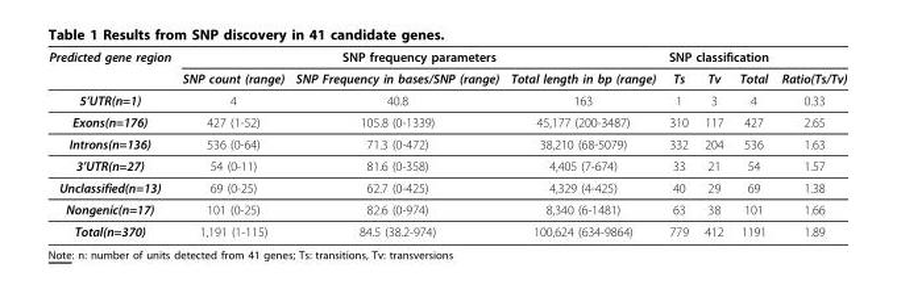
<table><thead><tr><td rowspan="2">Predicted gene region</td><td colspan="3">SNP frequency parameters</td><td colspan="3">SNP classification</td><td rowspan="2">Ratio(Ts/Tv)</td></tr><tr><td>SNP count (range)</td><td>SNP Frequency in bases/SNP (range)</td><td>Total length in bp (range)</td><td>Ts</td><td>Tv</td><td>Total</td></tr></thead><tbody><tr><td>5’UTR(n=1)</td><td>4</td><td>40.8</td><td>163</td><td>1</td><td>3</td><td>4</td><td>0.33</td></tr><tr><td>Exons(n=176)</td><td>427 (1-52)</td><td>105.8 (0-1339)</td><td>45,177 (200-3487)</td><td>310</td><td>117</td><td>427</td><td>2.65</td></tr><tr><td>Introns(n=136)</td><td>536 (0-64)</td><td>71.3 (0-472)</td><td>38,210 (68-5079)</td><td>332</td><td>204</td><td>536</td><td>1.63</td></tr><tr><td>3’UTR(n=27)</td><td>54 (0-11)</td><td>81.6 (0-358)</td><td>4,405 (7-674)</td><td>33</td><td>21</td><td>54</td><td>1.57</td></tr><tr><td>Unclassified(n=13)</td><td>69 (0-25)</td><td>62.7 (0-425)</td><td>4,329 (4-425)</td><td>40</td><td>29</td><td>69</td><td>1.38</td></tr><tr><td>Nongenic(n=17)</td><td>101 (0-25)</td><td>82.6 (0-974)</td><td>8,340 (6-1481)</td><td>63</td><td>38</td><td>101</td><td>1.66</td></tr><tr><td>Total(n=370)</td><td>1,191 (1-115)</td><td>84.5 (38.2-974)</td><td>100,624 (634-9864)</td><td>779</td><td>412</td><td>1191</td><td>1.89</td></tr></tbody></table>